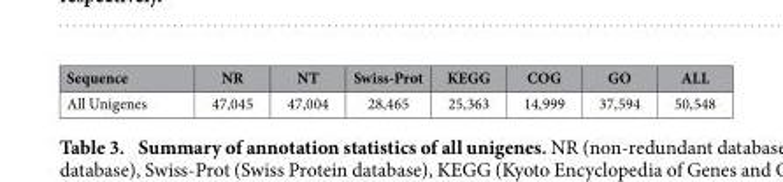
<table><thead><tr><td>Sequence</td><td>NR</td><td>NT</td><td>Swiss-Prot</td><td>KEGG</td><td>COG</td><td>GO</td><td>ALL</td></tr></thead><tbody><tr><td>All Unigenes</td><td>47,045</td><td>47,004</td><td>28,465</td><td>25,363</td><td>14,999</td><td>37,594</td><td>50,548</td></tr></tbody></table>